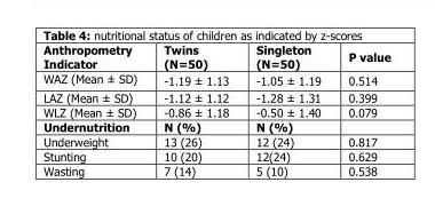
<table><thead><tr><td>Anthropometry Indicator</td><td>Twins (N=50)</td><td>Singleton (N=50)</td><td>P value</td></tr></thead><tbody><tr><td>WAZ (Mean ± SD)</td><td>-1.19 ± 1.13</td><td>-1.05 ± 1.19</td><td>0.514</td></tr><tr><td>LAZ (Mean ± SD)</td><td>-1.12 ± 1.12</td><td>-1.28 ± 1.31</td><td>0.399</td></tr><tr><td>WLZ (Mean ± SD)</td><td>-0.86 ± 1.18</td><td>-0.50 ± 1.40</td><td>0.079</td></tr><tr><td>Undernutrition</td><td>N (%)</td><td>N (%)</td><td></td></tr><tr><td>Underweight</td><td>13 (26)</td><td>12 (24)</td><td>0.817</td></tr><tr><td>Stunting</td><td>10 (20)</td><td>12(24)</td><td>0.629</td></tr><tr><td>Wasting</td><td>7 (14)</td><td>5 (10)</td><td>0.538</td></tr></tbody></table>